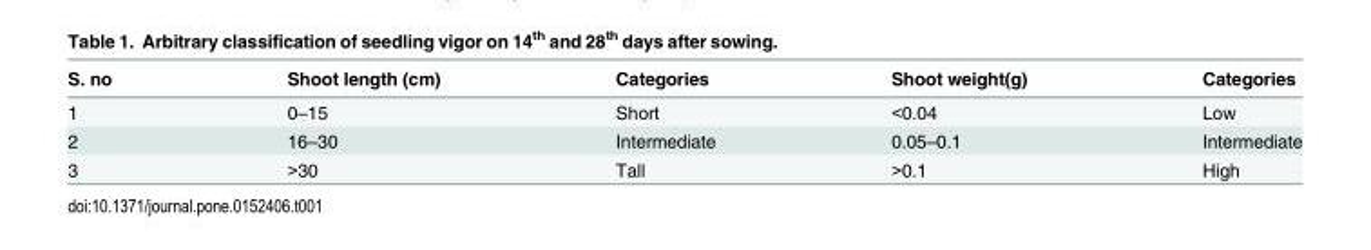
<table><thead><tr><td>S. no</td><td>Shoot length (cm)</td><td>Categories</td><td>Shoot weight(g)</td><td>Categories</td></tr></thead><tbody><tr><td>1</td><td>0–15</td><td>Short</td><td>&lt;0.04</td><td>Low</td></tr><tr><td>2</td><td>16–30</td><td>Intermediate</td><td>0.05–0.1</td><td>Intermediate</td></tr><tr><td>3</td><td>&gt;30</td><td>Tall</td><td>&gt;0.1</td><td>High</td></tr></tbody></table>